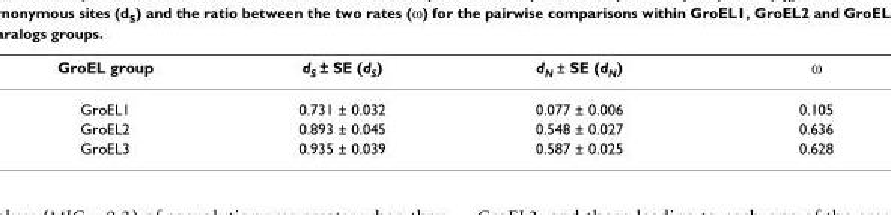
<table><thead><tr><td>GroEL group</td><td>d<sub>S</sub> ± SE (d<sub>S</sub>)</td><td>d<sub>N</sub> ± SE (d<sub>N</sub>)</td><td>ω</td></tr></thead><tbody><tr><td>GroEL1</td><td>0.731 ± 0.032</td><td>0.077 ± 0.006</td><td>0.105</td></tr><tr><td>GroEL2</td><td>0.893 ± 0.045</td><td>0.548 ± 0.027</td><td>0.636</td></tr><tr><td>GroEL3</td><td>0.935 ± 0.039</td><td>0.587 ± 0.025</td><td>0.628</td></tr></tbody></table>